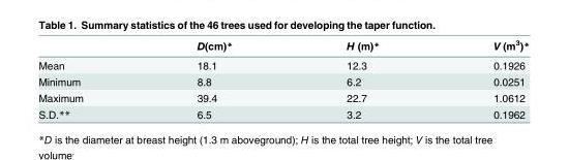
<table><thead><tr><td></td><td>D(cm)*</td><td>H (m)*</td><td>V (m<sup>3</sup>)*</td></tr></thead><tbody><tr><td>Mean</td><td>18.1</td><td>12.3</td><td>0.1926</td></tr><tr><td>Minimum</td><td>8.8</td><td>6.2</td><td>0.0251</td></tr><tr><td>Maximum</td><td>39.4</td><td>22.7</td><td>1.0612</td></tr><tr><td>S.D.**</td><td>6.5</td><td>3.2</td><td>0.1962</td></tr></tbody></table>